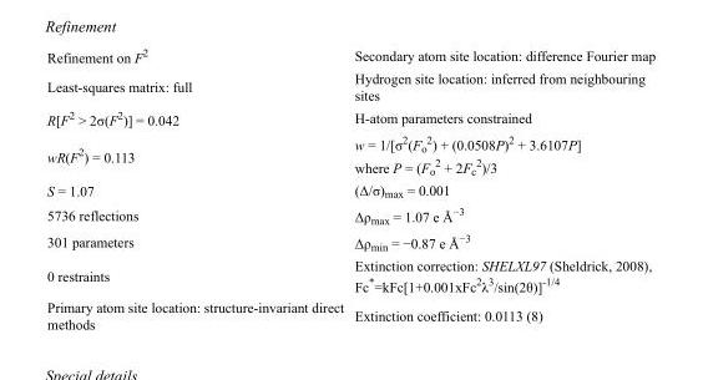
<table><tbody><tr><td>Refinement on F<sup>2</sup></td><td>Secondary atom site location: difference Fourier map</td></tr><tr><td>Least-squares matrix: full</td><td>Hydrogen site location: inferred from neighbouring sites</td></tr><tr><td>R[F<sup>2</sup> &gt; 2σ(F<sup>2</sup>)] = 0.042</td><td>H-atom parameters constrained</td></tr><tr><td>wR(F<sup>2</sup>) = 0.113</td><td>w = 1/[σ<sup>2</sup>(F<sub>o</sub> <sup>2</sup>) + (0.0508P)<sup>2</sup> + 3.6107P] where P = (F<sub>o</sub> <sup>2</sup> + 2F<sub>c</sub> <sup>2</sup>)/3</td></tr><tr><td>S = 1.07</td><td>(Δ/σ)<sub>max</sub> = 0.001</td></tr><tr><td>5736 reflections</td><td>Δρ<sub>max</sub> = 1.07 e Å<sup>−3</sup></td></tr><tr><td>301 parameters</td><td>Δρ<sub>min</sub> = −0.87 e Å<sup>−3</sup></td></tr><tr><td>0 restraints</td><td>Extinction correction: SHELXL97 (Sheldrick, 2008), Fc*=kFc[1+0.001xFc<sup>2</sup>λ<sup>3</sup>/sin(2θ)]<sup>-1/4</sup></td></tr><tr><td>Primary atom site location: structure-invariant direct methods</td><td>Extinction coefficient: 0.0113 (8)</td></tr></tbody></table>